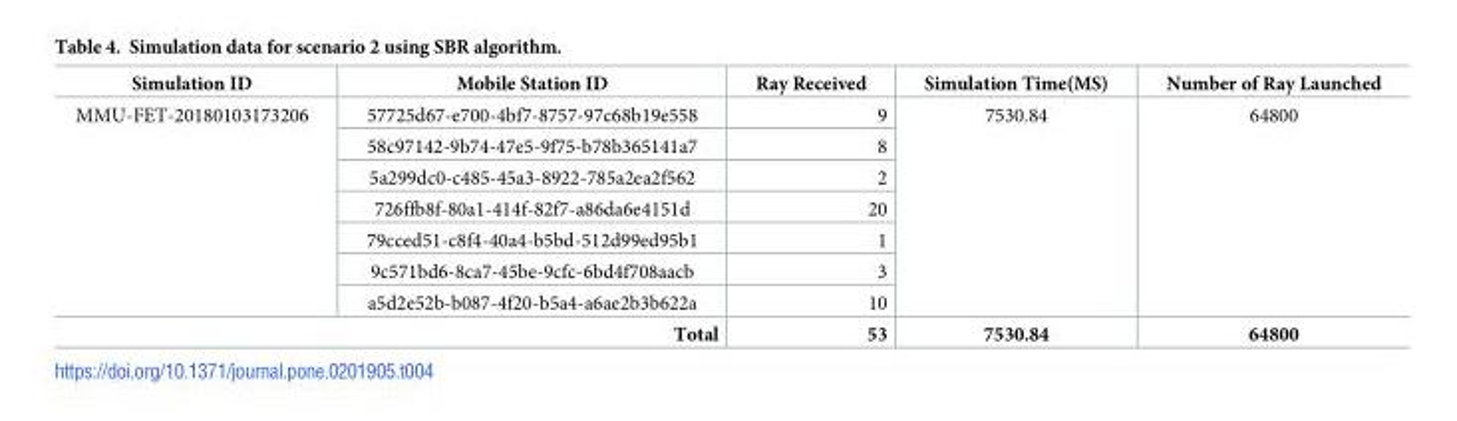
<table><thead><tr><td>Simulation ID</td><td>Mobile Station ID</td><td>Ray Received</td><td>Simulation Time(MS)</td><td>Number of Ray Launched</td></tr></thead><tbody><tr><td rowspan="7">MMU-FET-20180103173206</td><td>57725d67-e700-4bf7-8757-97c68b19e558</td><td>9</td><td rowspan="7">7530.84</td><td rowspan="7">64800</td></tr><tr><td>58c97142-9b74-47e5-9f75-b78b365141a7</td><td>8</td></tr><tr><td>5a299dc0-c485-45a3-8922-785a2ea2f562</td><td>2</td></tr><tr><td>726ffb8f-80a1-414f-82f7-a86da6e4151d</td><td>20</td></tr><tr><td>79cced51-c8f4-40a4-b5bd-512d99ed95b1</td><td>1</td></tr><tr><td>9c571bd6-8ca7-45be-9cfc-6bd4f708aacb</td><td>3</td></tr><tr><td>a5d2e52b-b087-4f20-b5a4-a6ae2b3b622a</td><td>10</td></tr><tr><td colspan="2">Total</td><td>53</td><td>7530.84</td><td>64800</td></tr></tbody></table>